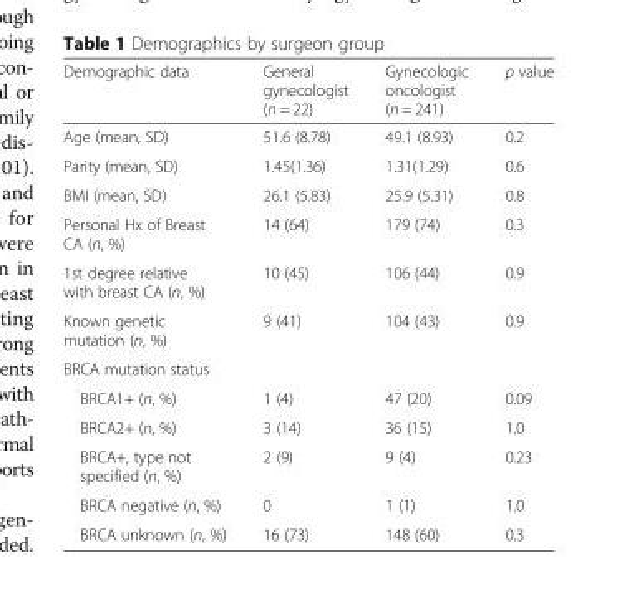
<table><thead><tr><td>Demographic data</td><td>General gynecologist (n = 22)</td><td>Gynecologic oncologist (n = 241)</td><td>p value</td></tr></thead><tbody><tr><td>Age (mean, SD)</td><td>51.6 (8.78)</td><td>49.1 (8.93)</td><td>0.2</td></tr><tr><td>Parity (mean, SD)</td><td>1.45(1.36)</td><td>1.31(1.29)</td><td>0.6</td></tr><tr><td>BMI (mean, SD)</td><td>26.1 (5.83)</td><td>25.9 (5.31)</td><td>0.8</td></tr><tr><td>Personal Hx of Breast CA (n, %)</td><td>14 (64)</td><td>179 (74)</td><td>0.3</td></tr><tr><td>1st degree relative with breast CA (n, %)</td><td>10 (45)</td><td>106 (44)</td><td>0.9</td></tr><tr><td>Known genetic mutation (n, %)</td><td>9 (41)</td><td>104 (43)</td><td>0.9</td></tr><tr><td colspan="4">BRCA mutation status</td></tr><tr><td>BRCA1+ (n, %)</td><td>1 (4)</td><td>47 (20)</td><td>0.09</td></tr><tr><td>BRCA2+ (n, %)</td><td>3 (14)</td><td>36 (15)</td><td>1.0</td></tr><tr><td>BRCA+, type not specified (n, %)</td><td>2 (9)</td><td>9 (4)</td><td>0.23</td></tr><tr><td>BRCA negative (n, %)</td><td>0</td><td>1 (1)</td><td>1.0</td></tr><tr><td>BRCA unknown (n, %)</td><td>16 (73)</td><td>148 (60)</td><td>0.3</td></tr></tbody></table>